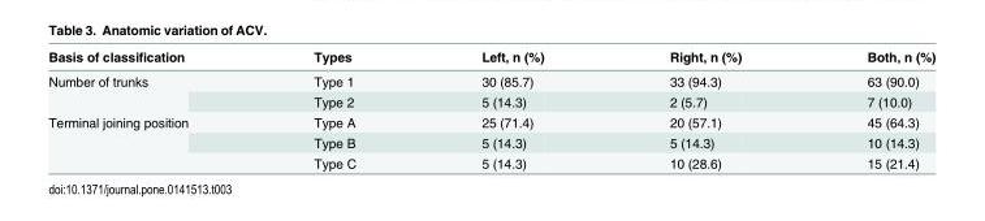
<table><thead><tr><td>Basis of classification</td><td>Types</td><td>Left, n (%)</td><td>Right, n (%)</td><td>Both, n (%)</td></tr></thead><tbody><tr><td rowspan="2">Number of trunks</td><td>Type 1</td><td>30 (85.7)</td><td>33 (94.3)</td><td>63 (90.0)</td></tr><tr><td>Type 2</td><td>5 (14.3)</td><td>2 (5.7)</td><td>7 (10.0)</td></tr><tr><td rowspan="3">Terminal joining position</td><td>Type A</td><td>25 (71.4)</td><td>20 (57.1)</td><td>45 (64.3)</td></tr><tr><td>Type B</td><td>5 (14.3)</td><td>5 (14.3)</td><td>10 (14.3)</td></tr><tr><td>Type C</td><td>5 (14.3)</td><td>10 (28.6)</td><td>15 (21.4)</td></tr></tbody></table>